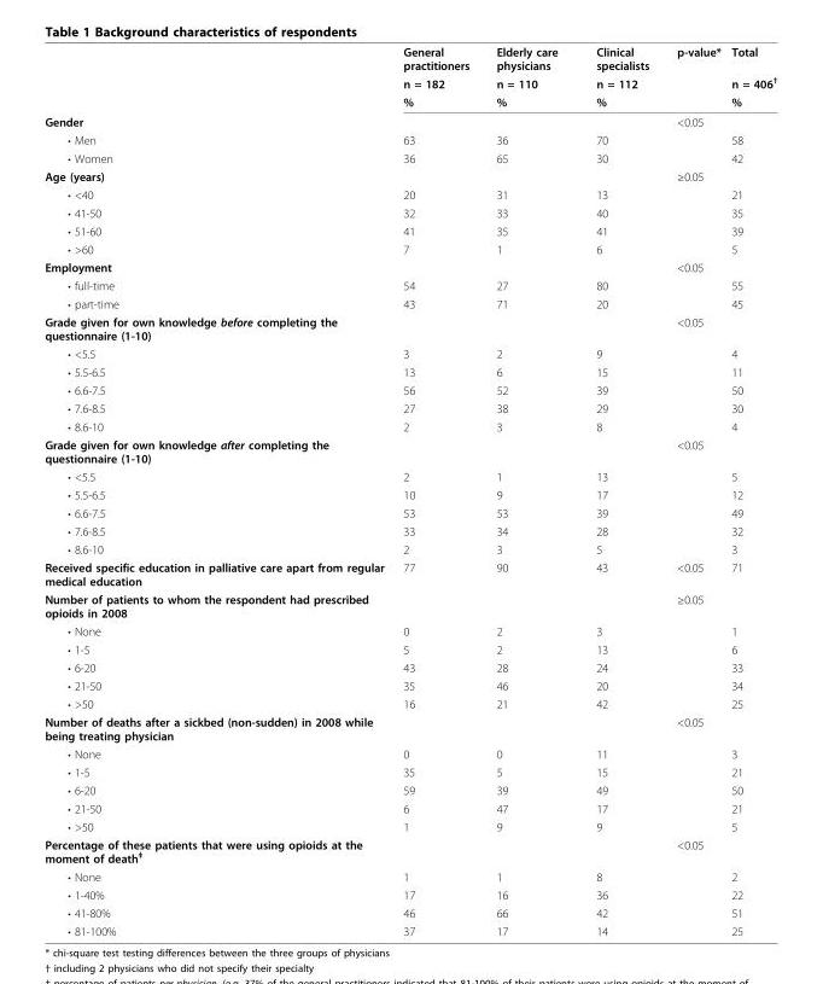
<table><thead><tr><td></td><td>General practitioners</td><td>Elderly care physicians</td><td>Clinical specialists</td><td>p-value*</td><td>Total</td></tr></thead><tbody><tr><td></td><td>n = 182</td><td>n = 110</td><td>n = 112</td><td></td><td>n = 406<sup>†</sup></td></tr><tr><td></td><td>%</td><td>%</td><td>%</td><td></td><td>%</td></tr><tr><td>Gender</td><td></td><td></td><td></td><td>&lt;0.05</td><td></td></tr><tr><td>• Men</td><td>63</td><td>36</td><td>70</td><td></td><td>58</td></tr><tr><td>• Women</td><td>36</td><td>65</td><td>30</td><td></td><td>42</td></tr><tr><td>Age (years)</td><td></td><td></td><td></td><td>≥0.05</td><td></td></tr><tr><td>• &lt;40</td><td>20</td><td>31</td><td>13</td><td></td><td>21</td></tr><tr><td>• 41-50</td><td>32</td><td>33</td><td>40</td><td></td><td>35</td></tr><tr><td>• 51-60</td><td>41</td><td>35</td><td>41</td><td></td><td>39</td></tr><tr><td>• &gt;60</td><td>7</td><td>1</td><td>6</td><td></td><td>5</td></tr><tr><td>Employment</td><td></td><td></td><td></td><td>&lt;0.05</td><td></td></tr><tr><td>• full-time</td><td>54</td><td>27</td><td>80</td><td></td><td>55</td></tr><tr><td>• part-time</td><td>43</td><td>71</td><td>20</td><td></td><td>45</td></tr><tr><td>Grade given for own knowledge before completing the questionnaire (1-10)</td><td></td><td></td><td></td><td>&lt;0.05</td><td></td></tr><tr><td>• &lt;5.5</td><td>3</td><td>2</td><td>9</td><td></td><td>4</td></tr><tr><td>• 5.5-6.5</td><td>13</td><td>6</td><td>15</td><td></td><td>11</td></tr><tr><td>• 6.6-7.5</td><td>56</td><td>52</td><td>39</td><td></td><td>50</td></tr><tr><td>• 7.6-8.5</td><td>27</td><td>38</td><td>29</td><td></td><td>30</td></tr><tr><td>• 8.6-10</td><td>2</td><td>3</td><td>8</td><td></td><td>4</td></tr><tr><td>Grade given for own knowledge after completing the questionnaire (1-10)</td><td></td><td></td><td></td><td>&lt;0.05</td><td></td></tr><tr><td>• &lt;5.5</td><td>2</td><td>1</td><td>13</td><td></td><td>5</td></tr><tr><td>• 5.5-6.5</td><td>10</td><td>9</td><td>17</td><td></td><td>12</td></tr><tr><td>• 6.6-7.5</td><td>53</td><td>53</td><td>39</td><td></td><td>49</td></tr><tr><td>• 7.6-8.5</td><td>33</td><td>34</td><td>28</td><td></td><td>32</td></tr><tr><td>• 8.6-10</td><td>2</td><td>3</td><td>5</td><td></td><td>3</td></tr><tr><td>Received specific education in palliative care apart from regular medical education</td><td>77</td><td>90</td><td>43</td><td>&lt;0.05</td><td>71</td></tr><tr><td>Number of patients to whom the respondent had prescribed opioids in 2008</td><td></td><td></td><td></td><td>≥0.05</td><td></td></tr><tr><td>• None</td><td>0</td><td>2</td><td>3</td><td></td><td>1</td></tr><tr><td>• 1-5</td><td>5</td><td>2</td><td>13</td><td></td><td>6</td></tr><tr><td>• 6-20</td><td>43</td><td>28</td><td>24</td><td></td><td>33</td></tr><tr><td>• 21-50</td><td>35</td><td>46</td><td>20</td><td></td><td>34</td></tr><tr><td>• &gt;50</td><td>16</td><td>21</td><td>42</td><td></td><td>25</td></tr><tr><td>Number of deaths after a sickbed (non-sudden) in 2008 while being treating physician</td><td></td><td></td><td></td><td>&lt;0.05</td><td></td></tr><tr><td>• None</td><td>0</td><td>0</td><td>11</td><td></td><td>3</td></tr><tr><td>• 1-5</td><td>35</td><td>5</td><td>15</td><td></td><td>21</td></tr><tr><td>• 6-20</td><td>59</td><td>39</td><td>49</td><td></td><td>50</td></tr><tr><td>• 21-50</td><td>6</td><td>47</td><td>17</td><td></td><td>21</td></tr><tr><td>• &gt;50</td><td>1</td><td>9</td><td>9</td><td></td><td>5</td></tr><tr><td>Percentage of these patients that were using opioids at the moment of death<sup>‡</sup></td><td></td><td></td><td></td><td>&lt;0.05</td><td></td></tr><tr><td>• None</td><td>1</td><td>1</td><td>8</td><td></td><td>2</td></tr><tr><td>• 1-40%</td><td>17</td><td>16</td><td>36</td><td></td><td>22</td></tr><tr><td>• 41-80%</td><td>46</td><td>66</td><td>42</td><td></td><td>51</td></tr><tr><td>• 81-100%</td><td>37</td><td>17</td><td>14</td><td></td><td>25</td></tr></tbody></table>